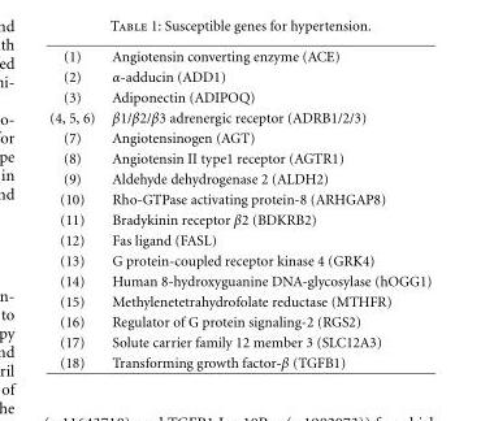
<table><tbody><tr><td>(1)</td><td>Angiotensin converting enzyme (ACE)</td></tr><tr><td>(2)</td><td>α-adducin (ADD1)</td></tr><tr><td>(3)</td><td>Adiponectin (ADIPOQ)</td></tr><tr><td>(4, 5, 6)</td><td>β1/β2/β3 adrenergic receptor (ADRB1/2/3)</td></tr><tr><td>(7)</td><td>Angiotensinogen (AGT)</td></tr><tr><td>(8)</td><td>Angiotensin II type1 receptor (AGTR1)</td></tr><tr><td>(9)</td><td>Aldehyde dehydrogenase 2 (ALDH2)</td></tr><tr><td>(10)</td><td>Rho-GTPase activating protein-8 (ARHGAP8)</td></tr><tr><td>(11)</td><td>Bradykinin receptor β2 (BDKRB2)</td></tr><tr><td>(12)</td><td>Fas ligand (FASL)</td></tr><tr><td>(13)</td><td>G protein-coupled receptor kinase 4 (GRK4)</td></tr><tr><td>(14)</td><td>Human 8-hydroxyguanine DNA-glycosylase (hOGG1)</td></tr><tr><td>(15)</td><td>Methylenetetrahydrofolate reductase (MTHFR)</td></tr><tr><td>(16)</td><td>Regulator of G protein signaling-2 (RGS2)</td></tr><tr><td>(17)</td><td>Solute carrier family 12 member 3 (SLC12A3)</td></tr><tr><td>(18)</td><td>Transforming growth factor-β (TGFB1)</td></tr></tbody></table>